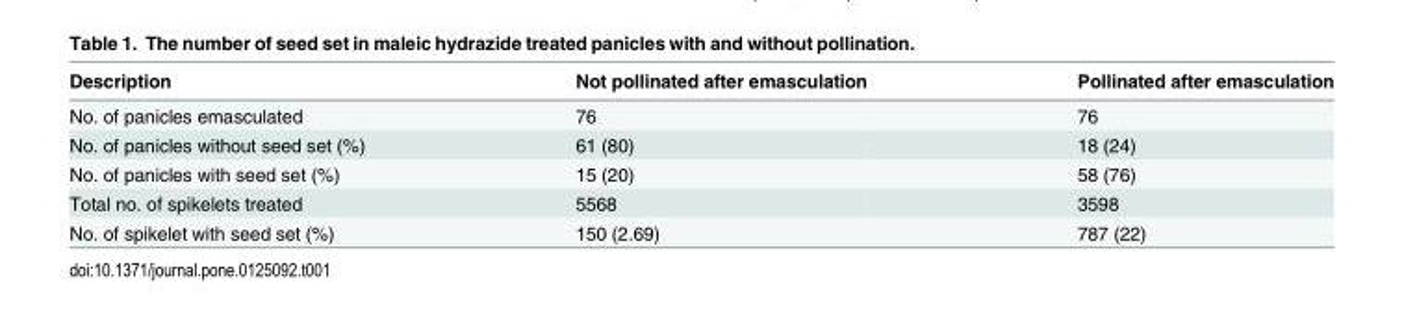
<table><thead><tr><td>Description</td><td>Not pollinated after emasculation</td><td>Pollinated after emasculation</td></tr></thead><tbody><tr><td>No. of panicles emasculated</td><td>76</td><td>76</td></tr><tr><td>No. of panicles without seed set (%)</td><td>61 (80)</td><td>18 (24)</td></tr><tr><td>No. of panicles with seed set (%)</td><td>15 (20)</td><td>58 (76)</td></tr><tr><td>Total no. of spikelets treated</td><td>5568</td><td>3598</td></tr><tr><td>No. of spikelet with seed set (%)</td><td>150 (2.69)</td><td>787 (22)</td></tr></tbody></table>